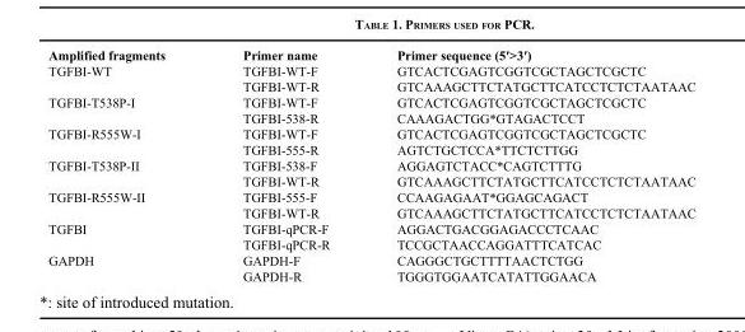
<table><thead><tr><td>Amplified fragments</td><td>Primer name</td><td>Primer sequence (5′&gt;3′)</td></tr></thead><tbody><tr><td rowspan="2">TGFBI-WT</td><td>TGFBI-WT-F</td><td>GTCACTCGAGTCGGTCGCTAGCTCGCTC</td></tr><tr><td>TGFBI-WT-R</td><td>GTCAAAGCTTCTATGCTTCATCCTCTCTAATAAC</td></tr><tr><td rowspan="2">TGFBI-T538P-I</td><td>TGFBI-WT-F</td><td>GTCACTCGAGTCGGTCGCTAGCTCGCTC</td></tr><tr><td>TGFBI-538-R</td><td>CAAAGACTGG*GTAGACTCCT</td></tr><tr><td rowspan="2">TGFBI-R555W-I</td><td>TGFBI-WT-F</td><td>GTCACTCGAGTCGGTCGCTAGCTCGCTC</td></tr><tr><td>TGFBI-555-R</td><td>AGTCTGCTCCA*TTCTCTTGG</td></tr><tr><td rowspan="2">TGFBI-T538P-II</td><td>TGFBI-538-F</td><td>AGGAGTCTACC*CAGTCTTTG</td></tr><tr><td>TGFBI-WT-R</td><td>GTCAAAGCTTCTATGCTTCATCCTCTCTAATAAC</td></tr><tr><td rowspan="2">TGFBI-R555W-II</td><td>TGFBI-555-F</td><td>CCAAGAGAAT*GGAGCAGACT</td></tr><tr><td>TGFBI-WT-R</td><td>GTCAAAGCTTCTATGCTTCATCCTCTCTAATAAC</td></tr><tr><td rowspan="2">TGFBI</td><td>TGFBI-qPCR-F</td><td>AGGACTGACGGAGACCCTCAAC</td></tr><tr><td>TGFBI-qPCR-R</td><td>TCCGCTAACCAGGATTTCATCAC</td></tr><tr><td rowspan="2">GAPDH</td><td>GAPDH-F</td><td>CAGGGCTGCTTTTAACTCTGG</td></tr><tr><td>GAPDH-R</td><td>TGGGTGGAATCATATTGGAACA</td></tr></tbody></table>